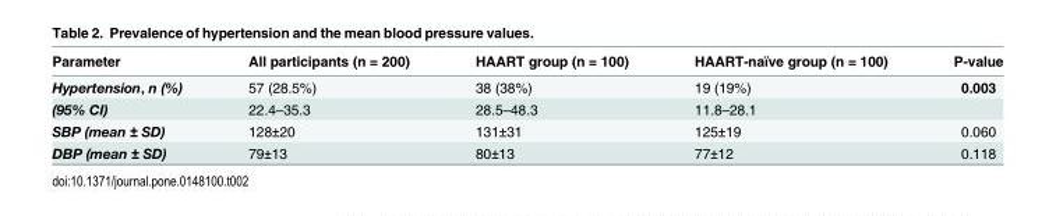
<table><thead><tr><td>Parameter</td><td>All participants (n = 200)</td><td>HAART group (n = 100)</td><td>HAART-naïve group (n = 100)</td><td>P-value</td></tr></thead><tbody><tr><td>Hypertension, n (%)</td><td>57 (28.5%)</td><td>38 (38%)</td><td>19 (19%)</td><td>0.003</td></tr><tr><td>(95% CI)</td><td>22.4–35.3</td><td>28.5–48.3</td><td>11.8–28.1</td><td></td></tr><tr><td>SBP (mean ± SD)</td><td>128±20</td><td>131±31</td><td>125±19</td><td>0.060</td></tr><tr><td>DBP (mean ± SD)</td><td>79±13</td><td>80±13</td><td>77±12</td><td>0.118</td></tr></tbody></table>